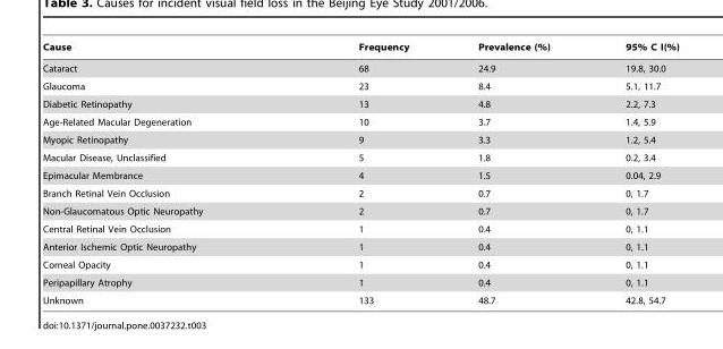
<table><thead><tr><td>Cause</td><td>Frequency</td><td>Prevalence (%)</td><td>95% C I(%)</td></tr></thead><tbody><tr><td>Cataract</td><td>68</td><td>24.9</td><td>19.8, 30.0</td></tr><tr><td>Glaucoma</td><td>23</td><td>8.4</td><td>5.1, 11.7</td></tr><tr><td>Diabetic Retinopathy</td><td>13</td><td>4.8</td><td>2.2, 7.3</td></tr><tr><td>Age-Related Macular Degeneration</td><td>10</td><td>3.7</td><td>1.4, 5.9</td></tr><tr><td>Myopic Retinopathy</td><td>9</td><td>3.3</td><td>1.2, 5.4</td></tr><tr><td>Macular Disease, Unclassified</td><td>5</td><td>1.8</td><td>0.2, 3.4</td></tr><tr><td>Epimacular Membrance</td><td>4</td><td>1.5</td><td>0.04, 2.9</td></tr><tr><td>Branch Retinal Vein Occlusion</td><td>2</td><td>0.7</td><td>0, 1.7</td></tr><tr><td>Non-Glaucomatous Optic Neuropathy</td><td>2</td><td>0.7</td><td>0, 1.7</td></tr><tr><td>Central Retinal Vein Occlusion</td><td>1</td><td>0.4</td><td>0, 1.1</td></tr><tr><td>Anterior Ischemic Optic Neuropathy</td><td>1</td><td>0.4</td><td>0, 1.1</td></tr><tr><td>Corneal Opacity</td><td>1</td><td>0.4</td><td>0, 1.1</td></tr><tr><td>Peripapillary Atrophy</td><td>1</td><td>0.4</td><td>0, 1.1</td></tr><tr><td>Unknown</td><td>133</td><td>48.7</td><td>42.8, 54.7</td></tr></tbody></table>